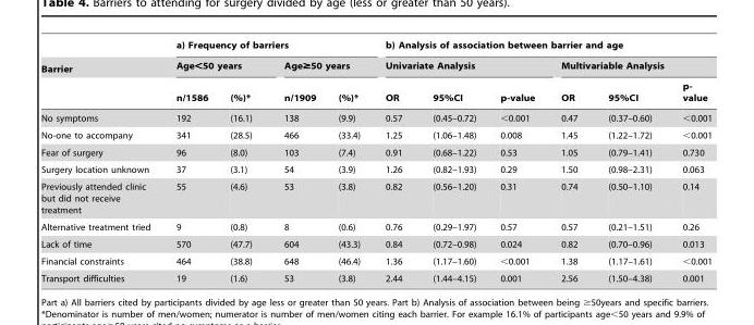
<table><thead><tr><td rowspan="3">Barrier</td><td colspan="4">a) Frequency of barriers</td><td colspan="6">b) Analysis of association between barrier and age</td></tr><tr><td colspan="2">Age&lt;50 years</td><td colspan="2">Age≥50 years</td><td colspan="3">Univariate Analysis</td><td colspan="3">Multivariable Analysis</td></tr><tr><td>n/1586</td><td>(%)*</td><td>n/1909</td><td>(%)*</td><td>OR</td><td>95%CI</td><td>p-value</td><td>OR</td><td>95%CI</td><td>p- value</td></tr></thead><tbody><tr><td>No symptoms</td><td>192</td><td>(16.1)</td><td>138</td><td>(9.9)</td><td>0.57</td><td>(0.45–0.72)</td><td>&lt;0.001</td><td>0.47</td><td>(0.37–0.60)</td><td>&lt;0.001</td></tr><tr><td>No-one to accompany</td><td>341</td><td>(28.5)</td><td>466</td><td>(33.4)</td><td>1.25</td><td>(1.06–1.48)</td><td>0.008</td><td>1.45</td><td>(1.22–1.72)</td><td>&lt;0.001</td></tr><tr><td>Fear of surgery</td><td>96</td><td>(8.0)</td><td>103</td><td>(7.4)</td><td>0.91</td><td>(0.68–1.22)</td><td>0.53</td><td>1.05</td><td>(0.79–1.41)</td><td>0.730</td></tr><tr><td>Surgery location unknown</td><td>37</td><td>(3.1)</td><td>54</td><td>(3.9)</td><td>1.26</td><td>(0.82–1.93)</td><td>0.29</td><td>1.50</td><td>(0.98–2.31)</td><td>0.063</td></tr><tr><td>Previously attended clinic but did not receive treatment</td><td>55</td><td>(4.6)</td><td>53</td><td>(3.8)</td><td>0.82</td><td>(0.56–1.20)</td><td>0.31</td><td>0.74</td><td>(0.50–1.10)</td><td>0.14</td></tr><tr><td>Alternative treatment tried</td><td>9</td><td>(0.8)</td><td>8</td><td>(0.6)</td><td>0.76</td><td>(0.29–1.97)</td><td>0.57</td><td>0.57</td><td>(0.21–1.51)</td><td>0.26</td></tr><tr><td>Lack of time</td><td>570</td><td>(47.7)</td><td>604</td><td>(43.3)</td><td>0.84</td><td>(0.72–0.98)</td><td>0.024</td><td>0.82</td><td>(0.70–0.96)</td><td>0.013</td></tr><tr><td>Financial constraints</td><td>464</td><td>(38.8)</td><td>648</td><td>(46.4)</td><td>1.36</td><td>(1.17–1.60)</td><td>&lt;0.001</td><td>1.38</td><td>(1.17–1.61)</td><td>&lt;0.001</td></tr><tr><td>Transport difficulties</td><td>19</td><td>(1.6)</td><td>53</td><td>(3.8)</td><td>2.44</td><td>(1.44–4.15)</td><td>0.001</td><td>2.56</td><td>(1.50–4.38)</td><td>0.001</td></tr></tbody></table>